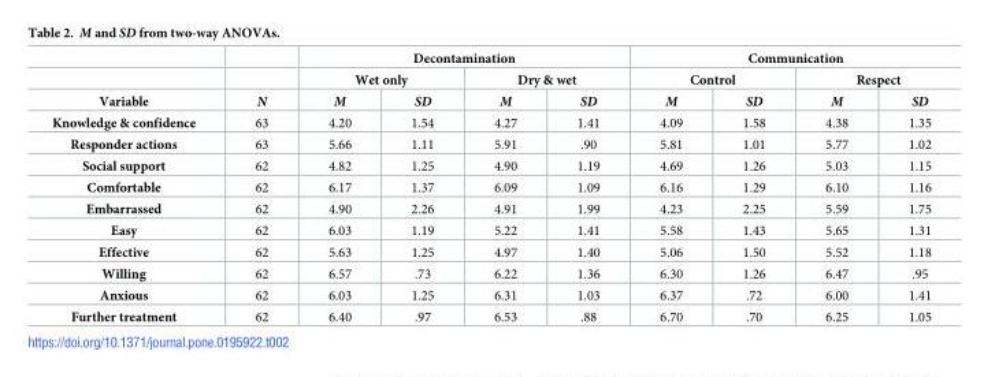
<table><thead><tr><td rowspan="3">Variable</td><td rowspan="3">N</td><td colspan="4">Decontamination</td><td colspan="4">Communication</td></tr><tr><td colspan="2">Wet only</td><td colspan="2">Dry &amp; wet</td><td colspan="2">Control</td><td colspan="2">Respect</td></tr><tr><td>M</td><td>SD</td><td>M</td><td>SD</td><td>M</td><td>SD</td><td>M</td><td>SD</td></tr></thead><tbody><tr><td>Knowledge &amp; confidence</td><td>63</td><td>4.20</td><td>1.54</td><td>4.27</td><td>1.41</td><td>4.09</td><td>1.58</td><td>4.38</td><td>1.35</td></tr><tr><td>Responder actions</td><td>63</td><td>5.66</td><td>1.11</td><td>5.91</td><td>.90</td><td>5.81</td><td>1.01</td><td>5.77</td><td>1.02</td></tr><tr><td>Social support</td><td>62</td><td>4.82</td><td>1.25</td><td>4.90</td><td>1.19</td><td>4.69</td><td>1.26</td><td>5.03</td><td>1.15</td></tr><tr><td>Comfortable</td><td>62</td><td>6.17</td><td>1.37</td><td>6.09</td><td>1.09</td><td>6.16</td><td>1.29</td><td>6.10</td><td>1.16</td></tr><tr><td>Embarrassed</td><td>62</td><td>4.90</td><td>2.26</td><td>4.91</td><td>1.99</td><td>4.23</td><td>2.25</td><td>5.59</td><td>1.75</td></tr><tr><td>Easy</td><td>62</td><td>6.03</td><td>1.19</td><td>5.22</td><td>1.41</td><td>5.58</td><td>1.43</td><td>5.65</td><td>1.31</td></tr><tr><td>Effective</td><td>62</td><td>5.63</td><td>1.25</td><td>4.97</td><td>1.40</td><td>5.06</td><td>1.50</td><td>5.52</td><td>1.18</td></tr><tr><td>Willing</td><td>62</td><td>6.57</td><td>.73</td><td>6.22</td><td>1.36</td><td>6.30</td><td>1.26</td><td>6.47</td><td>.95</td></tr><tr><td>Anxious</td><td>62</td><td>6.03</td><td>1.25</td><td>6.31</td><td>1.03</td><td>6.37</td><td>.72</td><td>6.00</td><td>1.41</td></tr><tr><td>Further treatment</td><td>62</td><td>6.40</td><td>.97</td><td>6.53</td><td>.88</td><td>6.70</td><td>.70</td><td>6.25</td><td>1.05</td></tr></tbody></table>